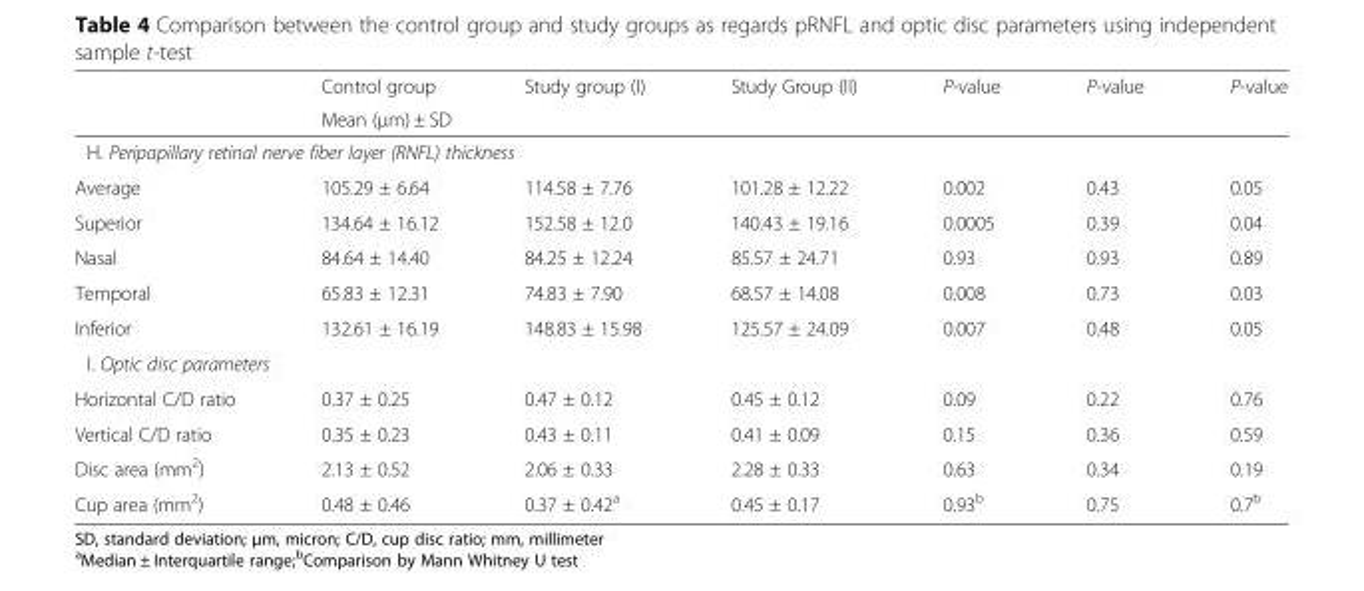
<table><thead><tr><td rowspan="2"></td><td>Control group</td><td>Study group (I)</td><td>Study Group (II)</td><td rowspan="2">P-value</td><td rowspan="2">P-value</td><td rowspan="2">P-value</td></tr><tr><td colspan="3">Mean (μm) ± SD</td></tr></thead><tbody><tr><td colspan="7">H. Peripapillary retinal nerve fiber layer (RNFL) thickness</td></tr><tr><td>Average</td><td>105.29 ± 6.64</td><td>114.58 ± 7.76</td><td>101.28 ± 12.22</td><td>0.002</td><td>0.43</td><td>0.05</td></tr><tr><td>Superior</td><td>134.64 ± 16.12</td><td>152.58 ± 12.0</td><td>140.43 ± 19.16</td><td>0.0005</td><td>0.39</td><td>0.04</td></tr><tr><td>Nasal</td><td>84.64 ± 14.40</td><td>84.25 ± 12.24</td><td>85.57 ± 24.71</td><td>0.93</td><td>0.93</td><td>0.89</td></tr><tr><td>Temporal</td><td>65.83 ± 12.31</td><td>74.83 ± 7.90</td><td>68.57 ± 14.08</td><td>0.008</td><td>0.73</td><td>0.03</td></tr><tr><td>Inferior</td><td>132.61 ± 16.19</td><td>148.83 ± 15.98</td><td>125.57 ± 24.09</td><td>0.007</td><td>0.48</td><td>0.05</td></tr><tr><td colspan="7">I. Optic disc parameters</td></tr><tr><td>Horizontal C/D ratio</td><td>0.37 ± 0.25</td><td>0.47 ± 0.12</td><td>0.45 ± 0.12</td><td>0.09</td><td>0.22</td><td>0.76</td></tr><tr><td>Vertical C/D ratio</td><td>0.35 ± 0.23</td><td>0.43 ± 0.11</td><td>0.41 ± 0.09</td><td>0.15</td><td>0.36</td><td>0.59</td></tr><tr><td>Disc area (mm<sup>2</sup>)</td><td>2.13 ± 0.52</td><td>2.06 ± 0.33</td><td>2.28 ± 0.33</td><td>0.63</td><td>0.34</td><td>0.19</td></tr><tr><td>Cup area (mm<sup>2</sup>)</td><td>0.48 ± 0.46</td><td>0.37 ± 0.42<sup>a</sup></td><td>0.45 ± 0.17</td><td>0.93<sup>b</sup></td><td>0.75</td><td>0.7<sup>b</sup></td></tr></tbody></table>